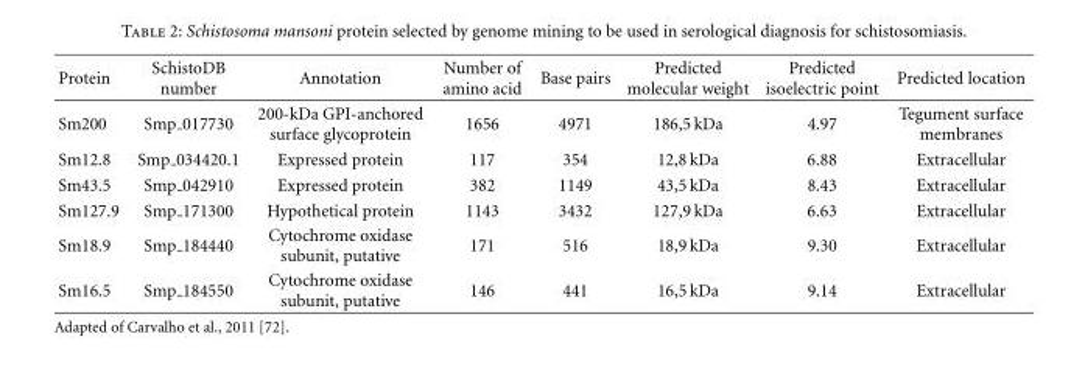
<table><thead><tr><td>Protein</td><td>SchistoDB number</td><td>Annotation</td><td>Number of amino acid</td><td>Base pairs</td><td>Predicted molecular weight</td><td>Predicted isoelectric point</td><td>Predicted location</td></tr></thead><tbody><tr><td>Sm200</td><td>Smp 017730</td><td>200-kDa GPI-anchored surface glycoprotein</td><td>1656</td><td>4971</td><td>186,5 kDa</td><td>4.97</td><td>Tegument surface membranes</td></tr><tr><td>Sm12.8</td><td>Smp 034420.1</td><td>Expressed protein</td><td>117</td><td>354</td><td>12,8 kDa</td><td>6.88</td><td>Extracellular</td></tr><tr><td>Sm43.5</td><td>Smp 042910</td><td>Expressed protein</td><td>382</td><td>1149</td><td>43,5 kDa</td><td>8.43</td><td>Extracellular</td></tr><tr><td>Sm127.9</td><td>Smp 171300</td><td>Hypothetical protein</td><td>1143</td><td>3432</td><td>127,9 kDa</td><td>6.63</td><td>Extracellular</td></tr><tr><td>Sm18.9</td><td>Smp 184440</td><td>Cytochrome oxidase subunit, putative</td><td>171</td><td>516</td><td>18,9 kDa</td><td>9.30</td><td>Extracellular</td></tr><tr><td>Sm16.5</td><td>Smp 184550</td><td>Cytochrome oxidase subunit, putative</td><td>146</td><td>441</td><td>16,5 kDa</td><td>9.14</td><td>Extracellular</td></tr></tbody></table>